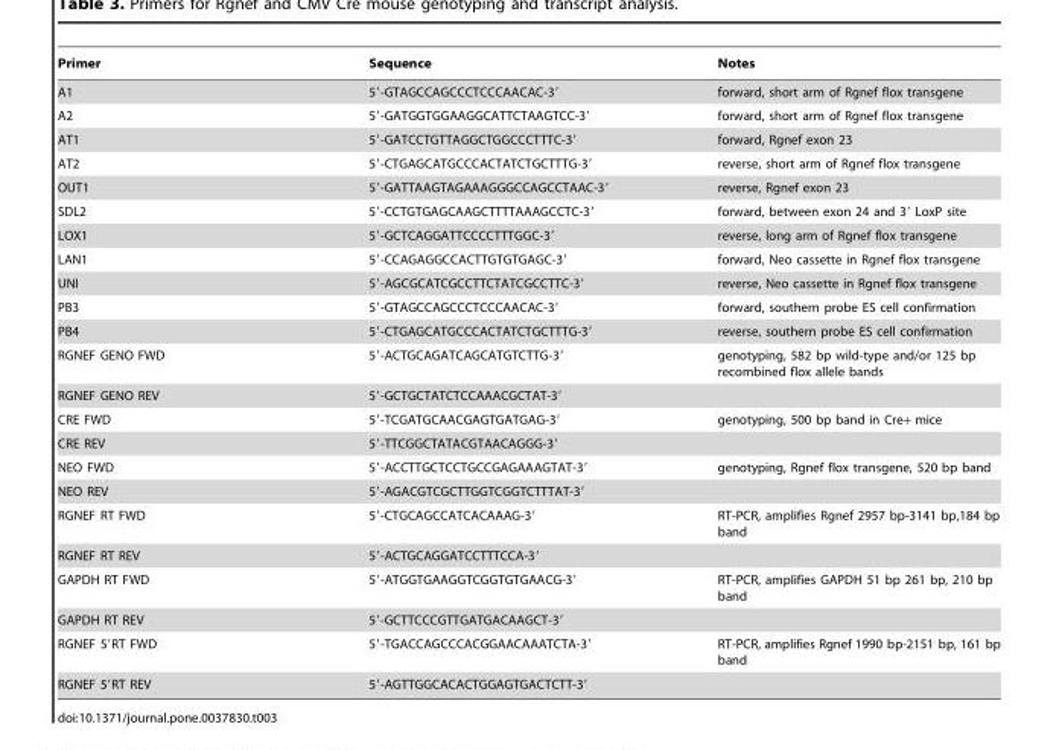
<table><thead><tr><td>Primer</td><td>Sequence</td><td>Notes</td></tr></thead><tbody><tr><td>A1</td><td>5′-GTAGCCAGCCCTCCCAACAC-3′</td><td>forward, short arm of Rgnef flox transgene</td></tr><tr><td>A2</td><td>5′-GATGGTGGAAGGCATTCTAAGTCC-3′</td><td>forward, short arm of Rgnef flox transgene</td></tr><tr><td>AT1</td><td>5′-GATCCTGTTAGGCTGGCCCTTTC-3′</td><td>forward, Rgnef exon 23</td></tr><tr><td>AT2</td><td>5′-CTGAGCATGCCCACTATCTGCTTTG-3′</td><td>reverse, short arm of Rgnef flox transgene</td></tr><tr><td>OUT1</td><td>5′-GATTAAGTAGAAAGGGCCAGCCTAAC-3′</td><td>reverse, Rgnef exon 23</td></tr><tr><td>SDL2</td><td>5′-CCTGTGAGCAAGCTTTTAAAGCCTC-3′</td><td>forward, between exon 24 and 3′ LoxP site</td></tr><tr><td>LOX1</td><td>5′-GCTCAGGATTCCCCTTTGGC-3′</td><td>reverse, long arm of Rgnef flox transgene</td></tr><tr><td>LAN1</td><td>5′-CCAGAGGCCACTTGTGTGAGC-3′</td><td>forward, Neo cassette in Rgnef flox transgene</td></tr><tr><td>UNI</td><td>5′-AGCGCATCGCCTTCTATCGCCTTC-3′</td><td>reverse, Neo cassette in Rgnef flox transgene</td></tr><tr><td>PB3</td><td>5′-GTAGCCAGCCCTCCCAACAC-3′</td><td>forward, southern probe ES cell confirmation</td></tr><tr><td>PB4</td><td>5′-CTGAGCATGCCCACTATCTGCTTTG-3′</td><td>reverse, southern probe ES cell confirmation</td></tr><tr><td>RGNEF GENO FWD</td><td>5′-ACTGCAGATCAGCATGTCTTG-3′</td><td>genotyping, 582 bp wild-type and/or 125 bp recombined flox allele bands</td></tr><tr><td>RGNEF GENO REV</td><td>5′-GCTGCTATCTCCAAACGCTAT-3′</td><td></td></tr><tr><td>CRE FWD</td><td>5′-TCGATGCAACGAGTGATGAG-3′</td><td>genotyping, 500 bp band in Cre+ mice</td></tr><tr><td>CRE REV</td><td>5′-TTCGGCTATACGTAACAGGG-3′</td><td></td></tr><tr><td>NEO FWD</td><td>5′-ACCTTGCTCCTGCCGAGAAAGTAT-3′</td><td>genotyping, Rgnef flox transgene, 520 bp band</td></tr><tr><td>NEO REV</td><td>5′-AGACGTCGCTTGGTCGGTCTTTAT-3′</td><td></td></tr><tr><td>RGNEF RT FWD</td><td>5′-CTGCAGCCATCACAAAG-3′</td><td>RT-PCR, amplifies Rgnef 2957 bp-3141 bp,184 bp band</td></tr><tr><td>RGNEF RT REV</td><td>5′-ACTGCAGGATCCTTTCCA-3′</td><td></td></tr><tr><td>GAPDH RT FWD</td><td>5′-ATGGTGAAGGTCGGTGTGAACG-3′</td><td>RT-PCR, amplifies GAPDH 51 bp 261 bp, 210 bp band</td></tr><tr><td>GAPDH RT REV</td><td>5′-GCTTCCCGTTGATGACAAGCT-3′</td><td></td></tr><tr><td>RGNEF 5′RT FWD</td><td>5′-TGACCAGCCCACGGAACAAATCTA-3′</td><td>RT-PCR, amplifies Rgnef 1990 bp-2151 bp, 161 bp band</td></tr><tr><td>RGNEF 5′RT REV</td><td>5′-AGTTGGCACACTGGAGTGACTCTT-3′</td><td></td></tr></tbody></table>